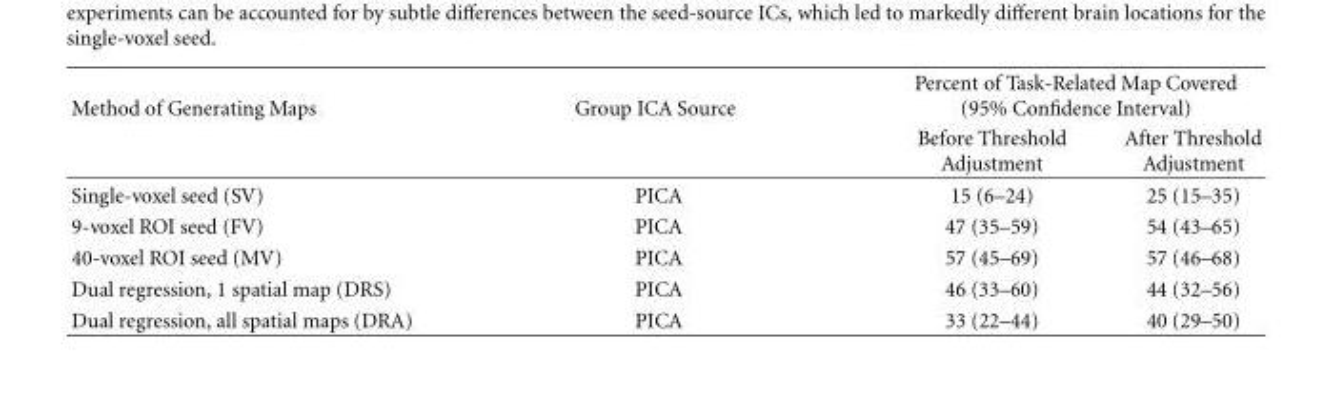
<table><thead><tr><td rowspan="2">Method of Generating Maps</td><td rowspan="2">Group ICA Source</td><td colspan="2">Percent of Task-Related Map Covered (95% Confidence Interval)</td></tr><tr><td>Before Threshold Adjustment</td><td>After Threshold Adjustment</td></tr></thead><tbody><tr><td>Single-voxel seed (SV)</td><td>PICA</td><td>15 (6–24)</td><td>25 (15–35)</td></tr><tr><td>9-voxel ROI seed (FV)</td><td>PICA</td><td>47 (35–59)</td><td>54 (43–65)</td></tr><tr><td>40-voxel ROI seed (MV)</td><td>PICA</td><td>57 (45–69)</td><td>57 (46–68)</td></tr><tr><td>Dual regression, 1 spatial map (DRS)</td><td>PICA</td><td>46 (33–60)</td><td>44 (32–56)</td></tr><tr><td>Dual regression, all spatial maps (DRA)</td><td>PICA</td><td>33 (22–44)</td><td>40 (29–50)</td></tr></tbody></table>